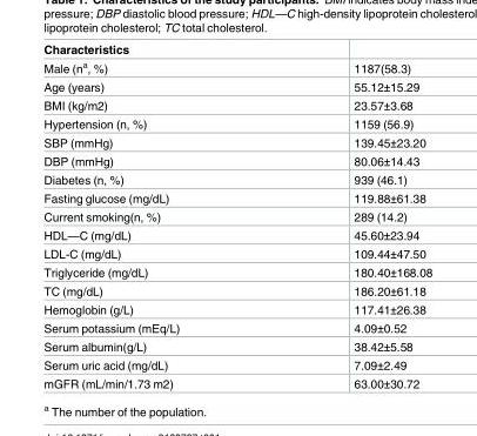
<table><thead><tr><td>Characteristics</td><td></td></tr></thead><tbody><tr><td>Male (n<sup>a</sup>, %)</td><td>1187(58.3)</td></tr><tr><td>Age (years)</td><td>55.12±15.29</td></tr><tr><td>BMI (kg/m2)</td><td>23.57±3.68</td></tr><tr><td>Hypertension (n, %)</td><td>1159 (56.9)</td></tr><tr><td>SBP (mmHg)</td><td>139.45±23.20</td></tr><tr><td>DBP (mmHg)</td><td>80.06±14.43</td></tr><tr><td>Diabetes (n, %)</td><td>939 (46.1)</td></tr><tr><td>Fasting glucose (mg/dL)</td><td>119.88±61.38</td></tr><tr><td>Current smoking(n, %)</td><td>289 (14.2)</td></tr><tr><td>HDL—C (mg/dL)</td><td>45.60±23.94</td></tr><tr><td>LDL-C (mg/dL)</td><td>109.44±47.50</td></tr><tr><td>Triglyceride (mg/dL)</td><td>180.40±168.08</td></tr><tr><td>TC (mg/dL)</td><td>186.20±61.18</td></tr><tr><td>Hemoglobin (g/L)</td><td>117.41±26.38</td></tr><tr><td>Serum potassium (mEq/L)</td><td>4.09±0.52</td></tr><tr><td>Serum albumin(g/L)</td><td>38.42±5.58</td></tr><tr><td>Serum uric acid (mg/dL)</td><td>7.09±2.49</td></tr><tr><td>mGFR (mL/min/1.73 m2)</td><td>63.00±30.72</td></tr></tbody></table>